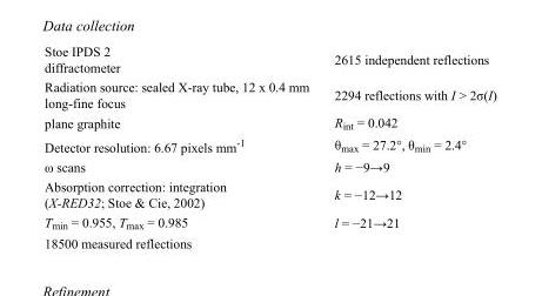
<table><tbody><tr><td>Stoe IPDS 2 diffractometer</td><td>2615 independent reflections</td></tr><tr><td>Radiation source: sealed X-ray tube, 12 x 0.4 mm long-fine focus</td><td>2294 reflections with I &gt; 2σ(I)</td></tr><tr><td>plane graphite</td><td>R<sub>int</sub> = 0.042</td></tr><tr><td>Detector resolution: 6.67 pixels mm<sup>-1</sup></td><td>θ<sub>max</sub> = 27.2°, θ<sub>min</sub> = 2.4°</td></tr><tr><td>ω scans</td><td>h = −9→9</td></tr><tr><td>Absorption correction: integration (X-RED32; Stoe &amp; Cie, 2002)</td><td>k = −12→12</td></tr><tr><td>T<sub>min</sub> = 0.955, T<sub>max</sub> = 0.985</td><td>l = −21→21</td></tr><tr><td>18500 measured reflections</td><td></td></tr></tbody></table>